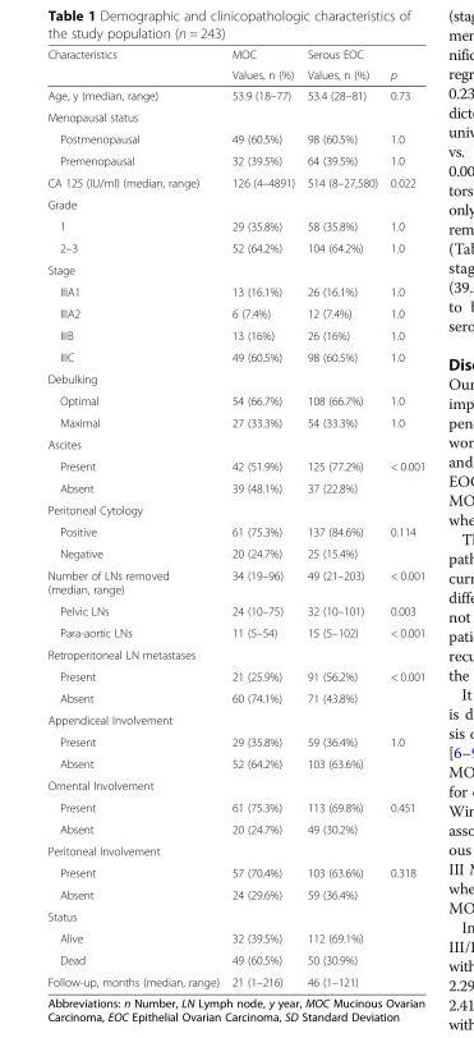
<table><thead><tr><td rowspan="2">Characteristics</td><td rowspan="2">MOC Values, n (%)</td><td rowspan="2">Serous EOC Values, n (%)</td><td rowspan="2">p</td></tr><tr></tr></thead><tbody><tr><td>Age, y (median, range)</td><td>53.9 (18–77)</td><td>53.4 (28–81)</td><td>0.73</td></tr><tr><td colspan="4">Menopausal status</td></tr><tr><td>Postmenopausal</td><td>49 (60.5%)</td><td>98 (60.5%)</td><td>1.0</td></tr><tr><td>Premenopausal</td><td>32 (39.5%)</td><td>64 (39.5%)</td><td>1.0</td></tr><tr><td>CA 125 (IU/ml) (median, range)</td><td>126 (4–4891)</td><td>514 (8–27,580)</td><td>0.022</td></tr><tr><td colspan="4">Grade</td></tr><tr><td>1</td><td>29 (35.8%)</td><td>58 (35.8%)</td><td>1.0</td></tr><tr><td>2–3</td><td>52 (64.2%)</td><td>104 (64.2%)</td><td>1.0</td></tr><tr><td colspan="4">Stage</td></tr><tr><td>IIIA1</td><td>13 (16.1%)</td><td>26 (16.1%)</td><td>1.0</td></tr><tr><td>IIIA2</td><td>6 (7.4%)</td><td>12 (7.4%)</td><td>1.0</td></tr><tr><td>IIIB</td><td>13 (16%)</td><td>26 (16%)</td><td>1.0</td></tr><tr><td>IIIC</td><td>49 (60.5%)</td><td>98 (60.5%)</td><td>1.0</td></tr><tr><td colspan="4">Debulking</td></tr><tr><td>Optimal</td><td>54 (66.7%)</td><td>108 (66.7%)</td><td>1.0</td></tr><tr><td>Maximal</td><td>27 (33.3%)</td><td>54 (33.3%)</td><td>1.0</td></tr><tr><td colspan="4">Ascites</td></tr><tr><td>Present</td><td>42 (51.9%)</td><td>125 (77.2%)</td><td rowspan="2">&lt; 0.001</td></tr><tr><td>Absent</td><td>39 (48.1%)</td><td>37 (22.8%)</td></tr><tr><td colspan="4">Peritoneal Cytology</td></tr><tr><td>Positive</td><td>61 (75.3%)</td><td>137 (84.6%)</td><td rowspan="2">0.114</td></tr><tr><td>Negative</td><td>20 (24.7%)</td><td>25 (15.4%)</td></tr><tr><td>Number of LNs removed (median, range)</td><td>34 (19–96)</td><td>49 (21–203)</td><td>&lt; 0.001</td></tr><tr><td>Pelvic LNs</td><td>24 (10–75)</td><td>32 (10–101)</td><td>0.003</td></tr><tr><td>Para-aortic LNs</td><td>11 (5–54)</td><td>15 (5–102)</td><td>&lt; 0.001</td></tr><tr><td colspan="4">Retroperitoneal LN metastases</td></tr><tr><td>Present</td><td>21 (25.9%)</td><td>91 (56.2%)</td><td rowspan="2">&lt; 0.001</td></tr><tr><td>Absent</td><td>60 (74.1%)</td><td>71 (43.8%)</td></tr><tr><td colspan="4">Appendiceal Involvement</td></tr><tr><td>Present</td><td>29 (35.8%)</td><td>59 (36.4%)</td><td rowspan="2">1.0</td></tr><tr><td>Absent</td><td>52 (64.2%)</td><td>103 (63.6%)</td></tr><tr><td colspan="4">Omental Involvement</td></tr><tr><td>Present</td><td>61 (75.3%)</td><td>113 (69.8%)</td><td rowspan="2">0.451</td></tr><tr><td>Absent</td><td>20 (24.7%)</td><td>49 (30.2%)</td></tr><tr><td colspan="4">Peritoneal Involvement</td></tr><tr><td>Present</td><td>57 (70.4%)</td><td>103 (63.6%)</td><td rowspan="2">0.318</td></tr><tr><td>Absent</td><td>24 (29.6%)</td><td>59 (36.4%)</td></tr><tr><td colspan="4">Status</td></tr><tr><td>Alive</td><td>32 (39.5%)</td><td>112 (69.1%)</td><td></td></tr><tr><td>Dead</td><td>49 (60.5%)</td><td>50 (30.9%)</td><td></td></tr><tr><td>Follow-up, months (median, range)</td><td>21 (1–216)</td><td>46 (1–121)</td><td></td></tr></tbody></table>